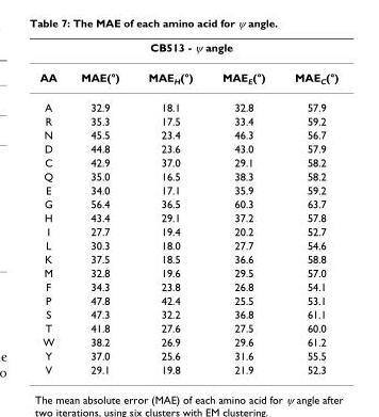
<table><thead><tr><td colspan="5">CB513 - ψ angle</td></tr><tr><td>AA</td><td>MAE(°)</td><td>MAE<sub>H</sub>(°)</td><td>MAE<sub>E</sub>(°)</td><td>MAE<sub>C</sub>(°)</td></tr></thead><tbody><tr><td>A</td><td>32.9</td><td>18.1</td><td>32.8</td><td>57.9</td></tr><tr><td>R</td><td>35.3</td><td>17.5</td><td>33.4</td><td>59.2</td></tr><tr><td>N</td><td>45.5</td><td>23.4</td><td>46.3</td><td>56.7</td></tr><tr><td>D</td><td>44.8</td><td>23.6</td><td>43.0</td><td>57.9</td></tr><tr><td>C</td><td>42.9</td><td>37.0</td><td>29.1</td><td>58.2</td></tr><tr><td>Q</td><td>35.0</td><td>16.5</td><td>38.3</td><td>58.2</td></tr><tr><td>E</td><td>34.0</td><td>17.1</td><td>35.9</td><td>59.2</td></tr><tr><td>G</td><td>56.4</td><td>36.5</td><td>60.3</td><td>63.7</td></tr><tr><td>H</td><td>43.4</td><td>29.1</td><td>37.2</td><td>57.8</td></tr><tr><td>I</td><td>27.7</td><td>19.4</td><td>20.2</td><td>52.7</td></tr><tr><td>L</td><td>30.3</td><td>18.0</td><td>27.7</td><td>54.6</td></tr><tr><td>K</td><td>37.5</td><td>18.5</td><td>36.6</td><td>58.8</td></tr><tr><td>M</td><td>32.8</td><td>19.6</td><td>29.5</td><td>57.0</td></tr><tr><td>F</td><td>34.3</td><td>23.8</td><td>26.8</td><td>54.1</td></tr><tr><td>P</td><td>47.8</td><td>42.4</td><td>25.5</td><td>53.1</td></tr><tr><td>S</td><td>47.3</td><td>32.2</td><td>36.8</td><td>61.1</td></tr><tr><td>T</td><td>41.8</td><td>27.6</td><td>27.5</td><td>60.0</td></tr><tr><td>W</td><td>38.2</td><td>26.9</td><td>29.6</td><td>61.2</td></tr><tr><td>Y</td><td>37.0</td><td>25.6</td><td>31.6</td><td>55.5</td></tr><tr><td>V</td><td>29.1</td><td>19.8</td><td>21.9</td><td>52.3</td></tr></tbody></table>